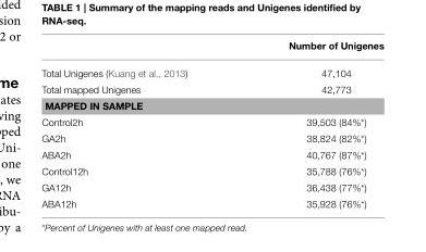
<table><thead><tr><td></td><td>Number of Unigenes</td></tr></thead><tbody><tr><td>Total Unigenes (Kuang et al., 2013)</td><td>47,104</td></tr><tr><td>Total mapped Unigenes</td><td>42,773</td></tr><tr><td colspan="2">MAPPED IN SAMPLE</td></tr><tr><td>Control2h</td><td>39,503 (84%*)</td></tr><tr><td>GA2h</td><td>38,824 (82%*)</td></tr><tr><td>ABA2h</td><td>40,767 (87%*)</td></tr><tr><td>Control12h</td><td>35,788 (76%*)</td></tr><tr><td>GA12h</td><td>36,438 (77%*)</td></tr><tr><td>ABA12h</td><td>35,928 (76%*)</td></tr></tbody></table>